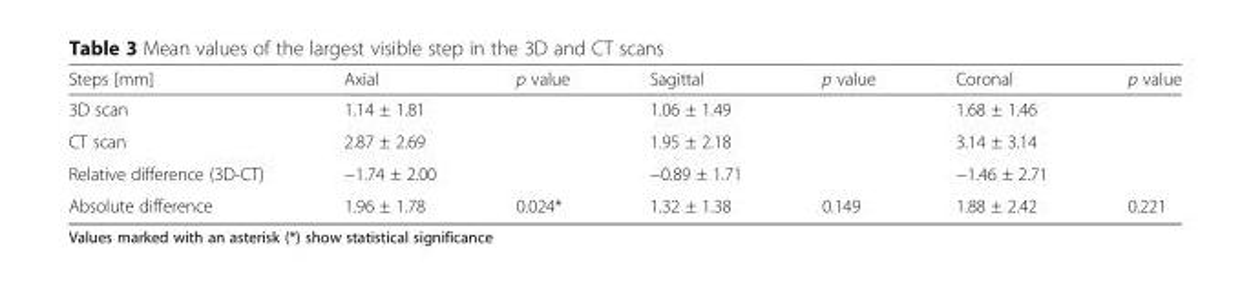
<table><thead><tr><td>Steps [mm]</td><td>Axial</td><td>p value</td><td>Sagittal</td><td>p value</td><td>Coronal</td><td>p value</td></tr></thead><tbody><tr><td>3D scan</td><td>1.14 ± 1.81</td><td></td><td>1.06 ± 1.49</td><td></td><td>1.68 ± 1.46</td><td></td></tr><tr><td>CT scan</td><td>2.87 ± 2.69</td><td></td><td>1.95 ± 2.18</td><td></td><td>3.14 ± 3.14</td><td></td></tr><tr><td>Relative difference (3D-CT)</td><td>−1.74 ± 2.00</td><td></td><td>−0.89 ± 1.71</td><td></td><td>−1.46 ± 2.71</td><td></td></tr><tr><td>Absolute difference</td><td>1.96 ± 1.78</td><td>0.024*</td><td>1.32 ± 1.38</td><td>0.149</td><td>1.88 ± 2.42</td><td>0.221</td></tr></tbody></table>